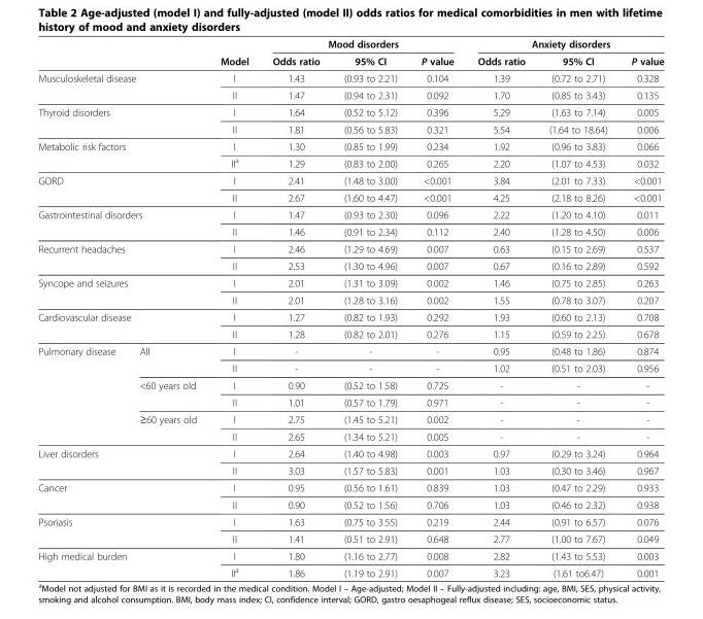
<table><thead><tr><td rowspan="2"></td><td rowspan="2"></td><td rowspan="2">Model</td><td colspan="3">Mood disorders</td><td colspan="3">Anxiety disorders</td></tr><tr><td>Odds ratio</td><td>95% CI</td><td>P value</td><td>Odds ratio</td><td>95% CI</td><td>P value</td></tr></thead><tbody><tr><td rowspan="2" colspan="2">Musculoskeletal disease</td><td>I</td><td>1.43</td><td>(0.93 to 2.21)</td><td>0.104</td><td>1.39</td><td>(0.72 to 2.71)</td><td>0.328</td></tr><tr><td>II</td><td>1.47</td><td>(0.94 to 2.31)</td><td>0.092</td><td>1.70</td><td>(0.85 to 3.43)</td><td>0.135</td></tr><tr><td rowspan="2" colspan="2">Thyroid disorders</td><td>I</td><td>1.64</td><td>(0.52 to 5.12)</td><td>0.396</td><td>5.29</td><td>(1.63 to 7.14)</td><td>0.005</td></tr><tr><td>II</td><td>1.81</td><td>(0.56 to 5.83)</td><td>0.321</td><td>5.54</td><td>(1.64 to 18.64)</td><td>0.006</td></tr><tr><td rowspan="2" colspan="2">Metabolic risk factors</td><td>I</td><td>1.30</td><td>(0.85 to 1.99)</td><td>0.234</td><td>1.92</td><td>(0.96 to 3.83)</td><td>0.066</td></tr><tr><td>II<sup>a</sup></td><td>1.29</td><td>(0.83 to 2.00)</td><td>0.265</td><td>2.20</td><td>(1.07 to 4.53)</td><td>0.032</td></tr><tr><td rowspan="2" colspan="2">GORD</td><td>I</td><td>2.41</td><td>(1.48 to 3.00)</td><td>&lt;0.001</td><td>3.84</td><td>(2.01 to 7.33)</td><td>&lt;0.001</td></tr><tr><td>II</td><td>2.67</td><td>(1.60 to 4.47)</td><td>&lt;0.001</td><td>4.25</td><td>(2.18 to 8.26)</td><td>&lt;0.001</td></tr><tr><td rowspan="2" colspan="2">Gastrointestinal disorders</td><td>I</td><td>1.47</td><td>(0.93 to 2.30)</td><td>0.096</td><td>2.22</td><td>(1.20 to 4.10)</td><td>0.011</td></tr><tr><td>II</td><td>1.46</td><td>(0.91 to 2.34)</td><td>0.112</td><td>2.40</td><td>(1.28 to 4.50)</td><td>0.006</td></tr><tr><td rowspan="2" colspan="2">Recurrent headaches</td><td>I</td><td>2.46</td><td>(1.29 to 4.69)</td><td>0.007</td><td>0.63</td><td>(0.15 to 2.69)</td><td>0.537</td></tr><tr><td>II</td><td>2.53</td><td>(1.30 to 4.96)</td><td>0.007</td><td>0.67</td><td>(0.16 to 2.89)</td><td>0.592</td></tr><tr><td rowspan="2" colspan="2">Syncope and seizures</td><td>I</td><td>2.01</td><td>(1.31 to 3.09)</td><td>0.002</td><td>1.46</td><td>(0.75 to 2.85)</td><td>0.263</td></tr><tr><td>II</td><td>2.01</td><td>(1.28 to 3.16)</td><td>0.002</td><td>1.55</td><td>(0.78 to 3.07)</td><td>0.207</td></tr><tr><td rowspan="2" colspan="2">Cardiovascular disease</td><td>I</td><td>1.27</td><td>(0.82 to 1.93)</td><td>0.292</td><td>1.93</td><td>(0.60 to 2.13)</td><td>0.708</td></tr><tr><td>II</td><td>1.28</td><td>(0.82 to 2.01)</td><td>0.276</td><td>1.15</td><td>(0.59 to 2.25)</td><td>0.678</td></tr><tr><td rowspan="6">Pulmonary disease</td><td rowspan="2">All</td><td>I</td><td>-</td><td>-</td><td>-</td><td>0.95</td><td>(0.48 to 1.86)</td><td>0.874</td></tr><tr><td>II</td><td>-</td><td>-</td><td>-</td><td>1.02</td><td>(0.51 to 2.03)</td><td>0.956</td></tr><tr><td rowspan="2">&lt;60 years old</td><td>I</td><td>0.90</td><td>(0.52 to 1.58)</td><td>0.725</td><td>-</td><td>-</td><td>-</td></tr><tr><td>II</td><td>1.01</td><td>(0.57 to 1.79)</td><td>0.971</td><td>-</td><td>-</td><td>-</td></tr><tr><td rowspan="2">≥60 years old</td><td>I</td><td>2.75</td><td>(1.45 to 5.21)</td><td>0.002</td><td>-</td><td>-</td><td>-</td></tr><tr><td>II</td><td>2.65</td><td>(1.34 to 5.21)</td><td>0.005</td><td>-</td><td>-</td><td>-</td></tr><tr><td rowspan="2" colspan="2">Liver disorders</td><td>I</td><td>2.64</td><td>(1.40 to 4.98)</td><td>0.003</td><td>0.97</td><td>(0.29 to 3.24)</td><td>0.964</td></tr><tr><td>II</td><td>3.03</td><td>(1.57 to 5.83)</td><td>0.001</td><td>1.03</td><td>(0.30 to 3.46)</td><td>0.967</td></tr><tr><td rowspan="2" colspan="2">Cancer</td><td>I</td><td>0.95</td><td>(0.56 to 1.61)</td><td>0.839</td><td>1.03</td><td>(0.47 to 2.29)</td><td>0.933</td></tr><tr><td>II</td><td>0.90</td><td>(0.52 to 1.56)</td><td>0.706</td><td>1.03</td><td>(0.46 to 2.32)</td><td>0.938</td></tr><tr><td rowspan="2" colspan="2">Psoriasis</td><td>I</td><td>1.63</td><td>(0.75 to 3.55)</td><td>0.219</td><td>2.44</td><td>(0.91 to 6.57)</td><td>0.076</td></tr><tr><td>II</td><td>1.41</td><td>(0.51 to 2.91)</td><td>0.648</td><td>2.77</td><td>(1.00 to 7.67)</td><td>0.049</td></tr><tr><td rowspan="2" colspan="2">High medical burden</td><td>I</td><td>1.80</td><td>(1.16 to 2.77)</td><td>0.008</td><td>2.82</td><td>(1.43 to 5.53)</td><td>0.003</td></tr><tr><td>II<sup>a</sup></td><td>1.86</td><td>(1.19 to 2.91)</td><td>0.007</td><td>3.23</td><td>(1.61 to6.47)</td><td>0.001</td></tr></tbody></table>